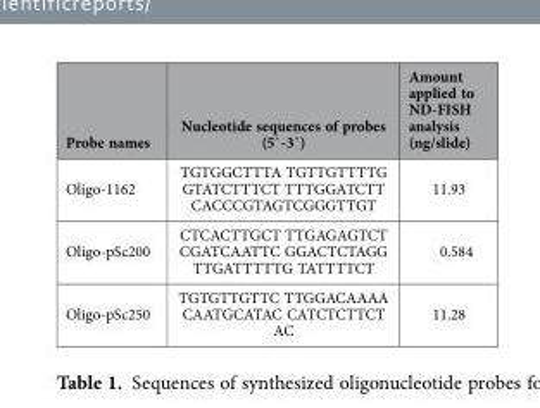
<table><thead><tr><td>Probe names</td><td>Nucleotide sequences of probes (5`-3`)</td><td>Amount applied to ND-FISH analysis (ng/slide)</td></tr></thead><tbody><tr><td>Oligo-1162</td><td>TGTGGCTTTA TGTTGTTTTG GTATCTTTCT TTTGGATCTT CACCCGTAGTCGGGTTGT</td><td>11.93</td></tr><tr><td>Oligo-pSc200</td><td>CTCACTTGCT TTGAGAGTCT CGATCAATTC GGACTCTAGG TTGATTTTTG TATTTTCT</td><td>0.584</td></tr><tr><td>Oligo-pSc250</td><td>TGTGTTGTTC TTGGACAAAA CAATGCATAC CATCTCTTCT AC</td><td>11.28</td></tr></tbody></table>